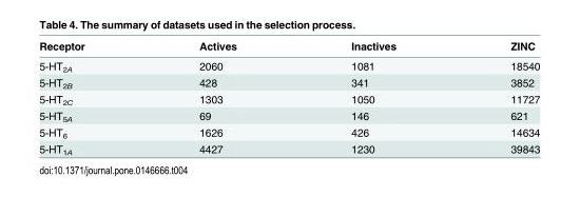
<table><thead><tr><td>Receptor</td><td>Actives</td><td>Inactives</td><td>ZINC</td></tr></thead><tbody><tr><td>5-HT<sub>2A</sub></td><td>2060</td><td>1081</td><td>18540</td></tr><tr><td>5-HT<sub>2B</sub></td><td>428</td><td>341</td><td>3852</td></tr><tr><td>5-HT<sub>2C</sub></td><td>1303</td><td>1050</td><td>11727</td></tr><tr><td>5-HT<sub>5A</sub></td><td>69</td><td>146</td><td>621</td></tr><tr><td>5-HT<sub>6</sub></td><td>1626</td><td>426</td><td>14634</td></tr><tr><td>5-HT<sub>1A</sub></td><td>4427</td><td>1230</td><td>39843</td></tr></tbody></table>